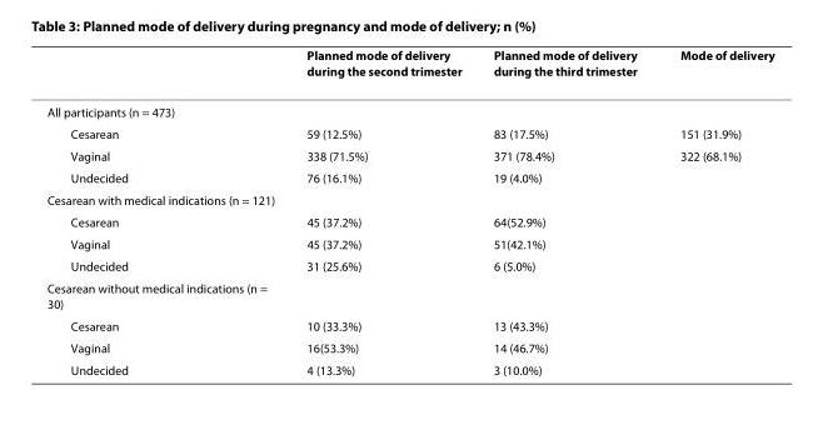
<table><thead><tr><td></td><td>Planned mode of delivery during the second trimester</td><td>Planned mode of delivery during the third trimester</td><td>Mode of delivery</td></tr></thead><tbody><tr><td colspan="4">All participants (n = 473)</td></tr><tr><td>Cesarean</td><td>59 (12.5%)</td><td>83 (17.5%)</td><td>151 (31.9%)</td></tr><tr><td>Vaginal</td><td>338 (71.5%)</td><td>371 (78.4%)</td><td>322 (68.1%)</td></tr><tr><td>Undecided</td><td>76 (16.1%)</td><td>19 (4.0%)</td><td></td></tr><tr><td colspan="4">Cesarean with medical indications (n = 121)</td></tr><tr><td>Cesarean</td><td>45 (37.2%)</td><td>64(52.9%)</td><td></td></tr><tr><td>Vaginal</td><td>45 (37.2%)</td><td>51(42.1%)</td><td></td></tr><tr><td>Undecided</td><td>31 (25.6%)</td><td>6 (5.0%)</td><td></td></tr><tr><td colspan="4">Cesarean without medical indications (n = 30)</td></tr><tr><td>Cesarean</td><td>10 (33.3%)</td><td>13 (43.3%)</td><td></td></tr><tr><td>Vaginal</td><td>16(53.3%)</td><td>14 (46.7%)</td><td></td></tr><tr><td>Undecided</td><td>4 (13.3%)</td><td>3 (10.0%)</td><td></td></tr></tbody></table>